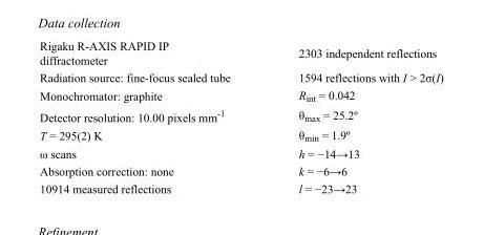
<table><tbody><tr><td>Rigaku R-AXIS RAPID IP diffractometer</td><td>2303 independent reflections</td></tr><tr><td>Radiation source: fine-focus sealed tube</td><td>1594 reflections with I &gt; 2σ(I)</td></tr><tr><td>Monochromator: graphite</td><td>R<sub>int</sub> = 0.042</td></tr><tr><td>Detector resolution: 10.00 pixels mm<sup>-1</sup></td><td>θ<sub>max</sub> = 25.2º</td></tr><tr><td>T = 295(2) K</td><td>θ<sub>min</sub> = 1.9º</td></tr><tr><td>ω scans</td><td>h = −14→13</td></tr><tr><td>Absorption correction: none</td><td>k = −6→6</td></tr><tr><td>10914 measured reflections</td><td>l = −23→23</td></tr></tbody></table>